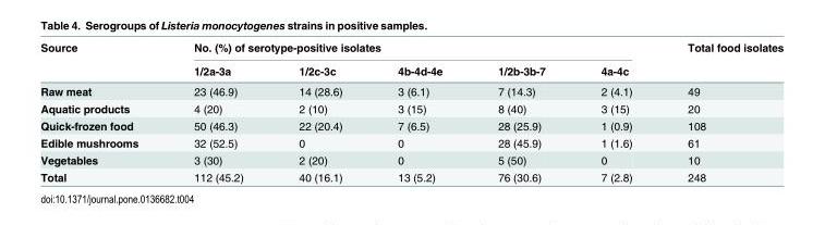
<table><thead><tr><td rowspan="2">Source</td><td colspan="5">No. (%) of serotype-positive isolates</td><td rowspan="2">Total food isolates</td></tr><tr><td>1/2a-3a</td><td>1/2c-3c</td><td>4b-4d-4e</td><td>1/2b-3b-7</td><td>4a-4c</td></tr></thead><tbody><tr><td>Raw meat</td><td>23 (46.9)</td><td>14 (28.6)</td><td>3 (6.1)</td><td>7 (14.3)</td><td>2 (4.1)</td><td>49</td></tr><tr><td>Aquatic products</td><td>4 (20)</td><td>2 (10)</td><td>3 (15)</td><td>8 (40)</td><td>3 (15)</td><td>20</td></tr><tr><td>Quick-frozen food</td><td>50 (46.3)</td><td>22 (20.4)</td><td>7 (6.5)</td><td>28 (25.9)</td><td>1 (0.9)</td><td>108</td></tr><tr><td>Edible mushrooms</td><td>32 (52.5)</td><td>0</td><td>0</td><td>28 (45.9)</td><td>1 (1.6)</td><td>61</td></tr><tr><td>Vegetables</td><td>3 (30)</td><td>2 (20)</td><td>0</td><td>5 (50)</td><td>0</td><td>10</td></tr><tr><td>Total</td><td>112 (45.2)</td><td>40 (16.1)</td><td>13 (5.2)</td><td>76 (30.6)</td><td>7 (2.8)</td><td>248</td></tr></tbody></table>